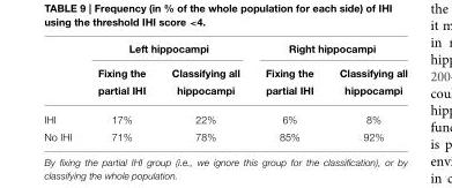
<table><thead><tr><td rowspan="2"></td><td colspan="2">Left hippocampi</td><td colspan="2">Right hippocampi</td></tr><tr><td>Fixing the partial IHI</td><td>Classifying all hippocampi</td><td>Fixing the partial IHI</td><td>Classifying all hippocampi</td></tr></thead><tbody><tr><td>IHI</td><td>17%</td><td>22%</td><td>6%</td><td>8%</td></tr><tr><td>No IHI</td><td>71%</td><td>78%</td><td>85%</td><td>92%</td></tr></tbody></table>